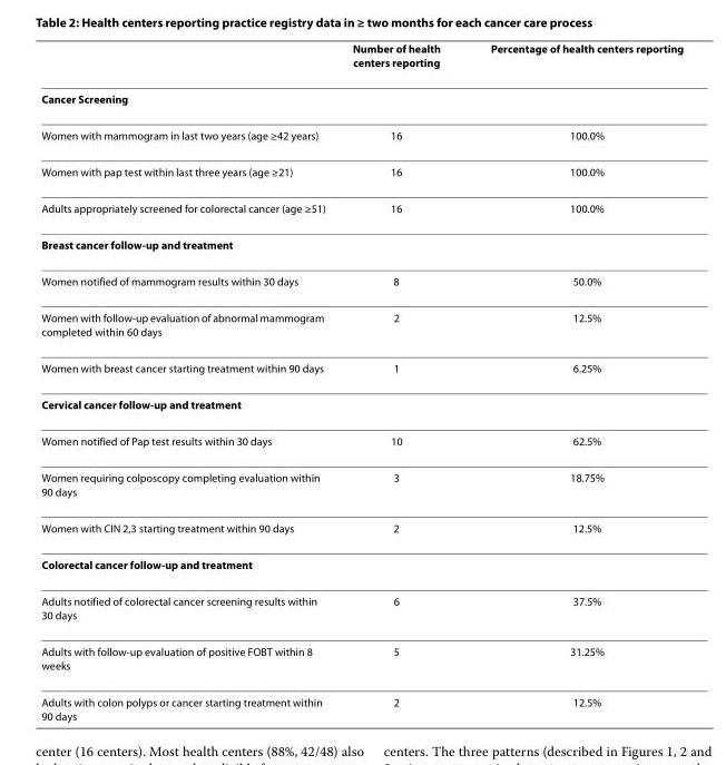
<table><thead><tr><td></td><td>Number of health centers reporting</td><td>Percentage of health centers reporting</td></tr></thead><tbody><tr><td colspan="3">Cancer Screening</td></tr><tr><td>Women with mammogram in last two years (age ≥42 years)</td><td>16</td><td>100.0%</td></tr><tr><td>Women with pap test within last three years (age ≥21)</td><td>16</td><td>100.0%</td></tr><tr><td>Adults appropriately screened for colorectal cancer (age ≥51)</td><td>16</td><td>100.0%</td></tr><tr><td colspan="3">Breast cancer follow-up and treatment</td></tr><tr><td>Women notified of mammogram results within 30 days</td><td>8</td><td>50.0%</td></tr><tr><td>Women with follow-up evaluation of abnormal mammogram completed within 60 days</td><td>2</td><td>12.5%</td></tr><tr><td>Women with breast cancer starting treatment within 90 days</td><td>1</td><td>6.25%</td></tr><tr><td colspan="3">Cervical cancer follow-up and treatment</td></tr><tr><td>Women notified of Pap test results within 30 days</td><td>10</td><td>62.5%</td></tr><tr><td>Women requiring colposcopy completing evaluation within 90 days</td><td>3</td><td>18.75%</td></tr><tr><td>Women with CIN 2,3 starting treatment within 90 days</td><td>2</td><td>12.5%</td></tr><tr><td colspan="3">Colorectal cancer follow-up and treatment</td></tr><tr><td>Adults notified of colorectal cancer screening results within 30 days</td><td>6</td><td>37.5%</td></tr><tr><td>Adults with follow-up evaluation of positive FOBT within 8 weeks</td><td>5</td><td>31.25%</td></tr><tr><td>Adults with colon polyps or cancer starting treatment within 90 days</td><td>2</td><td>12.5%</td></tr></tbody></table>